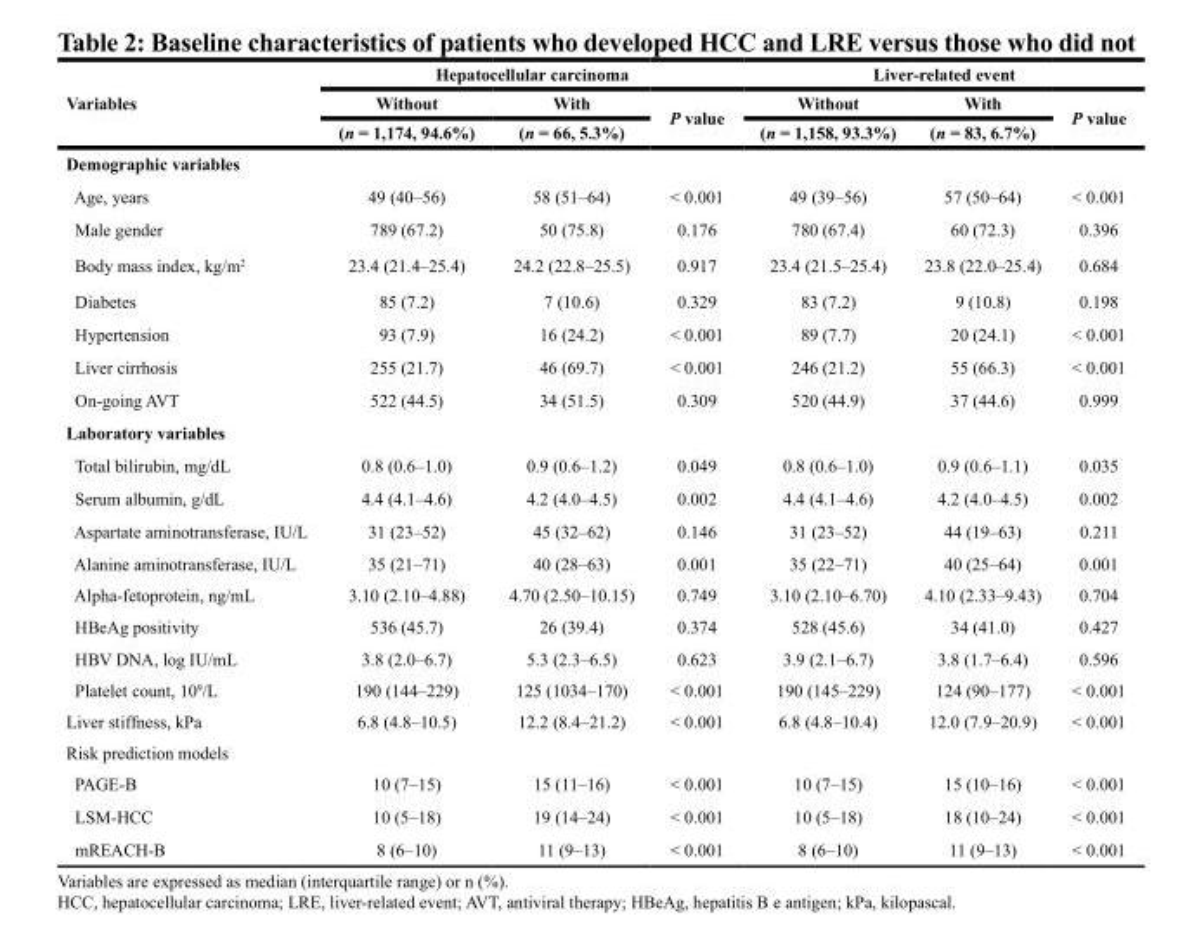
<table><thead><tr><td rowspan="3">Variables</td><td colspan="3">Hepatocellular carcinoma</td><td colspan="3">Liver-related event</td></tr><tr><td rowspan="2">Without (n = 1,174, 94.6%)</td><td rowspan="2">With (n = 66, 5.3%)</td><td rowspan="2">P value</td><td rowspan="2">Without (n = 1,158, 93.3%)</td><td rowspan="2">With (n = 83, 6.7%)</td><td rowspan="2">P value</td></tr><tr></tr></thead><tbody><tr><td colspan="7">Demographic variables</td></tr><tr><td>Age, years</td><td>49 (40–56)</td><td>58 (51–64)</td><td>&lt; 0.001</td><td>49 (39–56)</td><td>57 (50–64)</td><td>&lt; 0.001</td></tr><tr><td>Male gender</td><td>789 (67.2)</td><td>50 (75.8)</td><td>0.176</td><td>780 (67.4)</td><td>60 (72.3)</td><td>0.396</td></tr><tr><td>Body mass index, kg/m<sup>2</sup></td><td>23.4 (21.4–25.4)</td><td>24.2 (22.8–25.5)</td><td>0.917</td><td>23.4 (21.5–25.4)</td><td>23.8 (22.0–25.4)</td><td>0.684</td></tr><tr><td>Diabetes</td><td>85 (7.2)</td><td>7 (10.6)</td><td>0.329</td><td>83 (7.2)</td><td>9 (10.8)</td><td>0.198</td></tr><tr><td>Hypertension</td><td>93 (7.9)</td><td>16 (24.2)</td><td>&lt; 0.001</td><td>89 (7.7)</td><td>20 (24.1)</td><td>&lt; 0.001</td></tr><tr><td>Liver cirrhosis</td><td>255 (21.7)</td><td>46 (69.7)</td><td>&lt; 0.001</td><td>246 (21.2)</td><td>55 (66.3)</td><td>&lt; 0.001</td></tr><tr><td>On-going AVT</td><td>522 (44.5)</td><td>34 (51.5)</td><td>0.309</td><td>520 (44.9)</td><td>37 (44.6)</td><td>0.999</td></tr><tr><td colspan="7">Laboratory variables</td></tr><tr><td>Total bilirubin, mg/dL</td><td>0.8 (0.6–1.0)</td><td>0.9 (0.6–1.2)</td><td>0.049</td><td>0.8 (0.6–1.0)</td><td>0.9 (0.6–1.1)</td><td>0.035</td></tr><tr><td>Serum albumin, g/dL</td><td>4.4 (4.1–4.6)</td><td>4.2 (4.0–4.5)</td><td>0.002</td><td>4.4 (4.1–4.6)</td><td>4.2 (4.0–4.5)</td><td>0.002</td></tr><tr><td>Aspartate aminotransferase, IU/L</td><td>31 (23–52)</td><td>45 (32–62)</td><td>0.146</td><td>31 (23–52)</td><td>44 (19–63)</td><td>0.211</td></tr><tr><td>Alanine aminotransferase, IU/L</td><td>35 (21–71)</td><td>40 (28–63)</td><td>0.001</td><td>35 (22–71)</td><td>40 (25–64)</td><td>0.001</td></tr><tr><td>Alpha-fetoprotein, ng/mL</td><td>3.10 (2.10–4.88)</td><td>4.70 (2.50–10.15)</td><td>0.749</td><td>3.10 (2.10–6.70)</td><td>4.10 (2.33–9.43)</td><td>0.704</td></tr><tr><td>HBeAg positivity</td><td>536 (45.7)</td><td>26 (39.4)</td><td>0.374</td><td>528 (45.6)</td><td>34 (41.0)</td><td>0.427</td></tr><tr><td>HBV DNA, log IU/mL</td><td>3.8 (2.0–6.7)</td><td>5.3 (2.3–6.5)</td><td>0.623</td><td>3.9 (2.1–6.7)</td><td>3.8 (1.7–6.4)</td><td>0.596</td></tr><tr><td>Platelet count, 10<sup>9</sup>/L</td><td>190 (144–229)</td><td>125 (1034–170)</td><td>&lt; 0.001</td><td>190 (145–229)</td><td>124 (90–177)</td><td>&lt; 0.001</td></tr><tr><td>Liver stiffness, kPa</td><td>6.8 (4.8–10.5)</td><td>12.2 (8.4–21.2)</td><td>&lt; 0.001</td><td>6.8 (4.8–10.4)</td><td>12.0 (7.9–20.9)</td><td>&lt; 0.001</td></tr><tr><td colspan="7">Risk prediction models</td></tr><tr><td>PAGE-B</td><td>10 (7–15)</td><td>15 (11–16)</td><td>&lt; 0.001</td><td>10 (7–15)</td><td>15 (10–16)</td><td>&lt; 0.001</td></tr><tr><td>LSM-HCC</td><td>10 (5–18)</td><td>19 (14–24)</td><td>&lt; 0.001</td><td>10 (5–18)</td><td>18 (10–24)</td><td>&lt; 0.001</td></tr><tr><td>mREACH-B</td><td>8 (6–10)</td><td>11 (9–13)</td><td>&lt; 0.001</td><td>8 (6–10)</td><td>11 (9–13)</td><td>&lt; 0.001</td></tr></tbody></table>